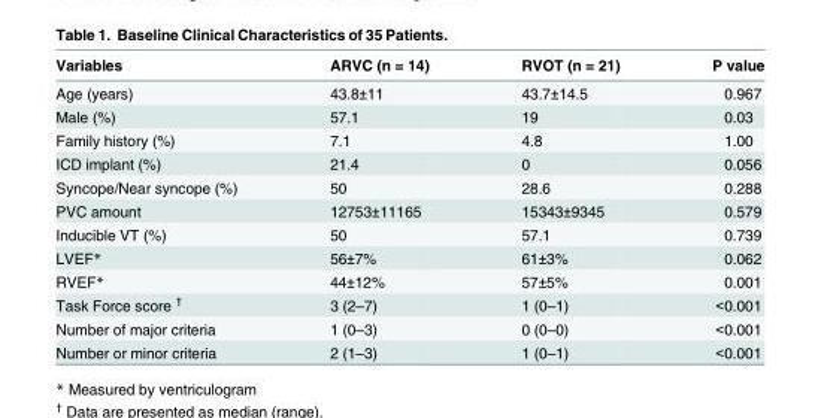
<table><thead><tr><td>Variables</td><td>ARVC (n = 14)</td><td>RVOT (n = 21)</td><td>P value</td></tr></thead><tbody><tr><td>Age (years)</td><td>43.8±11</td><td>43.7±14.5</td><td>0.967</td></tr><tr><td>Male (%)</td><td>57.1</td><td>19</td><td>0.03</td></tr><tr><td>Family history (%)</td><td>7.1</td><td>4.8</td><td>1.00</td></tr><tr><td>ICD implant (%)</td><td>21.4</td><td>0</td><td>0.056</td></tr><tr><td>Syncope/Near syncope (%)</td><td>50</td><td>28.6</td><td>0.288</td></tr><tr><td>PVC amount</td><td>12753±11165</td><td>15343±9345</td><td>0.579</td></tr><tr><td>Inducible VT (%)</td><td>50</td><td>57.1</td><td>0.739</td></tr><tr><td>LVEF*</td><td>56±7%</td><td>61±3%</td><td>0.062</td></tr><tr><td>RVEF*</td><td>44±12%</td><td>57±5%</td><td>0.001</td></tr><tr><td>Task Force score <sup>†</sup></td><td>3 (2–7)</td><td>1 (0–1)</td><td>&lt;0.001</td></tr><tr><td>Number of major criteria</td><td>1 (0–3)</td><td>0 (0–0)</td><td>&lt;0.001</td></tr><tr><td>Number or minor criteria</td><td>2 (1–3)</td><td>1 (0–1)</td><td>&lt;0.001</td></tr></tbody></table>